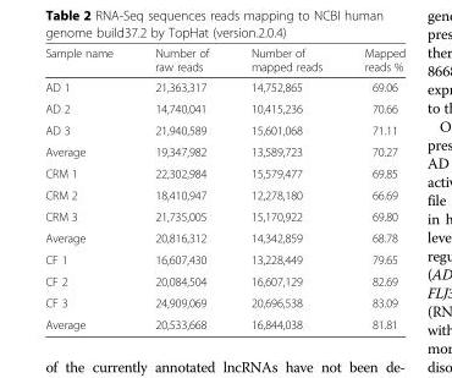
<table><thead><tr><td>Sample name</td><td>Number of raw reads</td><td>Number of mapped reads</td><td>Mapped reads %</td></tr></thead><tbody><tr><td>AD 1</td><td>21,363,317</td><td>14,752,865</td><td>69.06</td></tr><tr><td>AD 2</td><td>14,740,041</td><td>10,415,236</td><td>70.66</td></tr><tr><td>AD 3</td><td>21,940,589</td><td>15,601,068</td><td>71.11</td></tr><tr><td>Average</td><td>19,347,982</td><td>13,589,723</td><td>70.27</td></tr><tr><td>CRM 1</td><td>22,302,984</td><td>15,579,477</td><td>69.85</td></tr><tr><td>CRM 2</td><td>18,410,947</td><td>12,278,180</td><td>66.69</td></tr><tr><td>CRM 3</td><td>21,735,005</td><td>15,170,922</td><td>69.80</td></tr><tr><td>Average</td><td>20,816,312</td><td>14,342,859</td><td>68.78</td></tr><tr><td>CF 1</td><td>16,607,430</td><td>13,228,449</td><td>79.65</td></tr><tr><td>CF 2</td><td>20,084,504</td><td>16,607,129</td><td>82.69</td></tr><tr><td>CF 3</td><td>24,909,069</td><td>20,696,538</td><td>83.09</td></tr><tr><td>Average</td><td>20,533,668</td><td>16,844,038</td><td>81.81</td></tr></tbody></table>